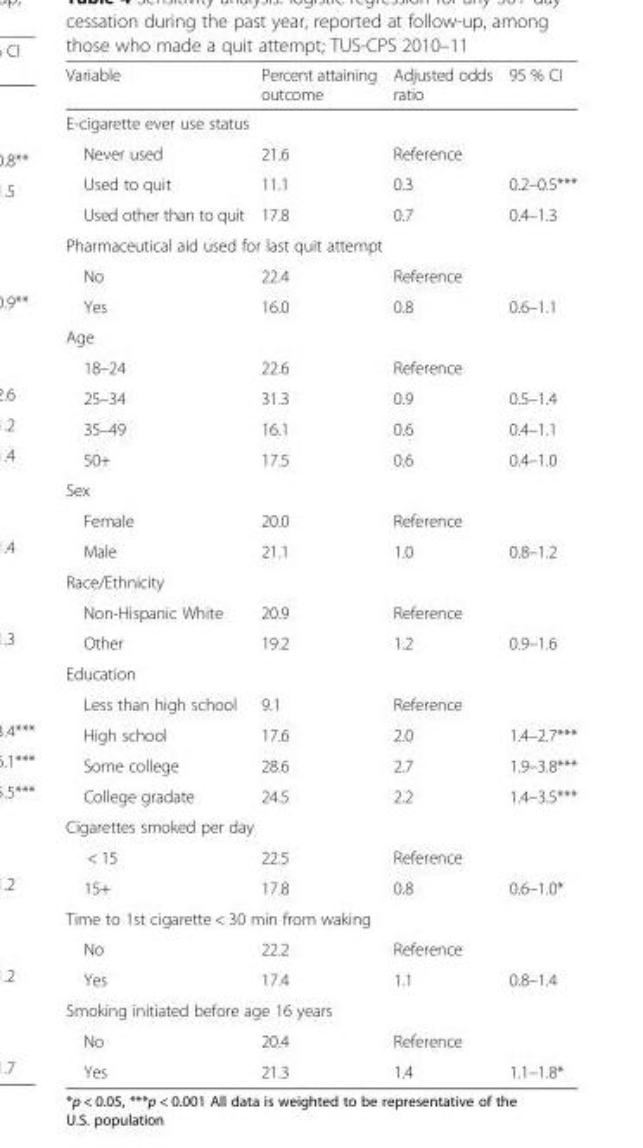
<table><thead><tr><td>Variable</td><td>Percent attaining outcome</td><td>Adjusted odds ratio</td><td>95 % CI</td></tr></thead><tbody><tr><td colspan="4">E-cigarette ever use status</td></tr><tr><td>Never used</td><td>21.6</td><td>Reference</td><td></td></tr><tr><td>Used to quit</td><td>11.1</td><td>0.3</td><td>0.2–0.5***</td></tr><tr><td>Used other than to quit</td><td>17.8</td><td>0.7</td><td>0.4–1.3</td></tr><tr><td colspan="4">Pharmaceutical aid used for last quit attempt</td></tr><tr><td>No</td><td>22.4</td><td>Reference</td><td></td></tr><tr><td>Yes</td><td>16.0</td><td>0.8</td><td>0.6–1.1</td></tr><tr><td colspan="4">Age</td></tr><tr><td>18–24</td><td>22.6</td><td>Reference</td><td></td></tr><tr><td>25–34</td><td>31.3</td><td>0.9</td><td>0.5–1.4</td></tr><tr><td>35–49</td><td>16.1</td><td>0.6</td><td>0.4–1.1</td></tr><tr><td>50+</td><td>17.5</td><td>0.6</td><td>0.4–1.0</td></tr><tr><td colspan="4">Sex</td></tr><tr><td>Female</td><td>20.0</td><td>Reference</td><td></td></tr><tr><td>Male</td><td>21.1</td><td>1.0</td><td>0.8–1.2</td></tr><tr><td colspan="4">Race/Ethnicity</td></tr><tr><td>Non-Hispanic White</td><td>20.9</td><td>Reference</td><td></td></tr><tr><td>Other</td><td>19.2</td><td>1.2</td><td>0.9–1.6</td></tr><tr><td colspan="4">Education</td></tr><tr><td>Less than high school</td><td>9.1</td><td>Reference</td><td></td></tr><tr><td>High school</td><td>17.6</td><td>2.0</td><td>1.4–2.7***</td></tr><tr><td>Some college</td><td>28.6</td><td>2.7</td><td>1.9–3.8***</td></tr><tr><td>College gradate</td><td>24.5</td><td>2.2</td><td>1.4–3.5***</td></tr><tr><td colspan="4">Cigarettes smoked per day</td></tr><tr><td>&lt; 15</td><td>22.5</td><td>Reference</td><td></td></tr><tr><td>15+</td><td>17.8</td><td>0.8</td><td>0.6–1.0*</td></tr><tr><td colspan="4">Time to 1st cigarette &lt; 30 min from waking</td></tr><tr><td>No</td><td>22.2</td><td>Reference</td><td></td></tr><tr><td>Yes</td><td>17.4</td><td>1.1</td><td>0.8–1.4</td></tr><tr><td colspan="4">Smoking initiated before age 16 years</td></tr><tr><td>No</td><td>20.4</td><td>Reference</td><td></td></tr><tr><td>Yes</td><td>21.3</td><td>1.4</td><td>1.1–1.8*</td></tr></tbody></table>